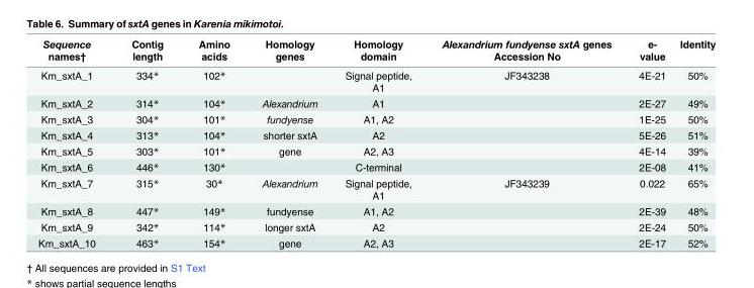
<table><thead><tr><td>Sequence names†</td><td>Contig length</td><td>Amino acids</td><td>Homology genes</td><td>Homology domain</td><td>Alexandrium fundyense sxtA genes Accession No</td><td>e- value</td><td>Identity</td></tr></thead><tbody><tr><td>Km_sxtA_1</td><td>334*</td><td>102*</td><td></td><td>Signal peptide, A1</td><td>JF343238</td><td>4E-21</td><td>50%</td></tr><tr><td>Km_sxtA_2</td><td>314*</td><td>104*</td><td>Alexandrium</td><td>A1</td><td></td><td>2E-27</td><td>49%</td></tr><tr><td>Km_sxtA_3</td><td>304*</td><td>101*</td><td>fundyense</td><td>A1, A2</td><td></td><td>1E-25</td><td>50%</td></tr><tr><td>Km_sxtA_4</td><td>313*</td><td>104*</td><td>shorter sxtA</td><td>A2</td><td></td><td>5E-26</td><td>51%</td></tr><tr><td>Km_sxtA_5</td><td>303*</td><td>101*</td><td>gene</td><td>A2, A3</td><td></td><td>4E-14</td><td>39%</td></tr><tr><td>Km_sxtA_6</td><td>446*</td><td>130*</td><td></td><td>C-terminal</td><td></td><td>2E-08</td><td>41%</td></tr><tr><td>Km_sxtA_7</td><td>315*</td><td>30*</td><td>Alexandrium</td><td>Signal peptide, A1</td><td>JF343239</td><td>0.022</td><td>65%</td></tr><tr><td>Km_sxtA_8</td><td>447*</td><td>149*</td><td>fundyense</td><td>A1, A2</td><td></td><td>2E-39</td><td>48%</td></tr><tr><td>Km_sxtA_9</td><td>342*</td><td>114*</td><td>longer sxtA</td><td>A2</td><td></td><td>2E-24</td><td>50%</td></tr><tr><td>Km_sxtA_10</td><td>463*</td><td>154*</td><td>gene</td><td>A2, A3</td><td></td><td>2E-17</td><td>52%</td></tr></tbody></table>